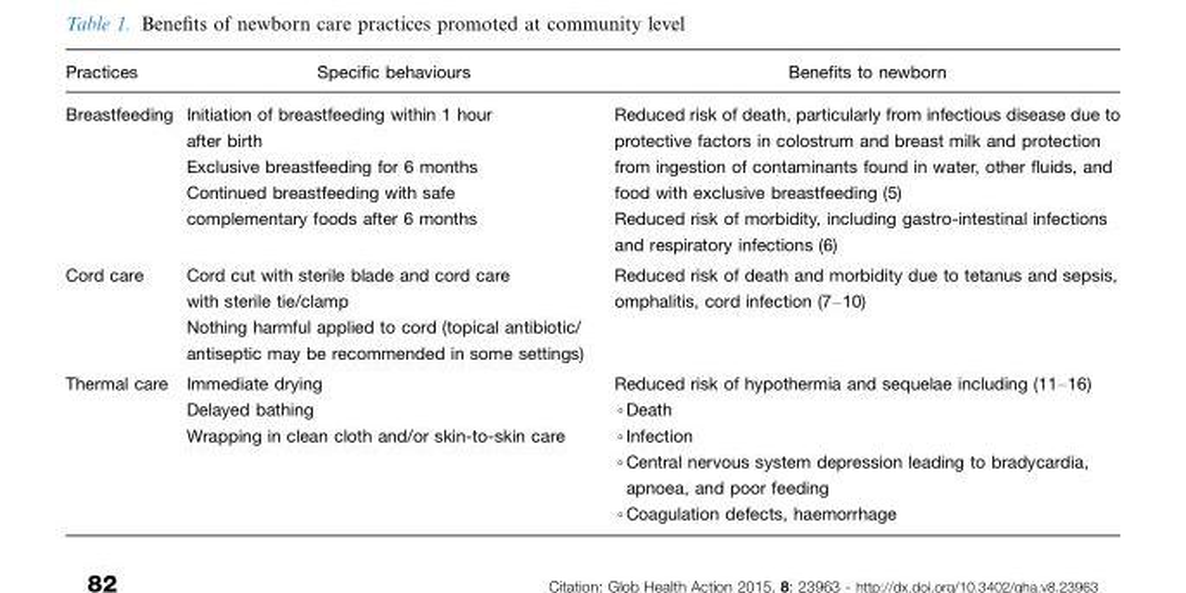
<table><thead><tr><td>Practices</td><td>Specific behaviours</td><td>Benefits to newborn</td></tr></thead><tbody><tr><td rowspan="3">Breastfeeding</td><td>Initiation of breastfeeding within 1 hour after birth</td><td>Reduced risk of death, particularly from infectious disease due to protective factors in colostrum and breast milk and protection</td></tr><tr><td>Exclusive breastfeeding for 6 months</td><td>from ingestion of contaminants found in water, other fluids, and</td></tr><tr><td>Continued breastfeeding with safe complementary foods after 6 months</td><td>food with exclusive breastfeeding (5) Reduced risk of morbidity, including gastro-intestinal infections and respiratory infections (6)</td></tr><tr><td rowspan="2">Cord care</td><td>Cord cut with sterile blade and cord care with sterile tie/clamp</td><td>Reduced risk of death and morbidity due to tetanus and sepsis, omphalitis, cord infection (7–10)</td></tr><tr><td>Nothing harmful applied to cord (topical antibiotic/ antiseptic may be recommended in some settings)</td><td></td></tr><tr><td rowspan="3">Thermal care</td><td>Immediate drying</td><td>Reduced risk of hypothermia and sequelae including (11–16)</td></tr><tr><td>Delayed bathing</td><td>∘Death</td></tr><tr><td>Wrapping in clean cloth and/or skin-to-skin care</td><td>∘Infection ∘Central nervous system depression leading to bradycardia, apnoea, and poor feeding ∘Coagulation defects, haemorrhage</td></tr></tbody></table>